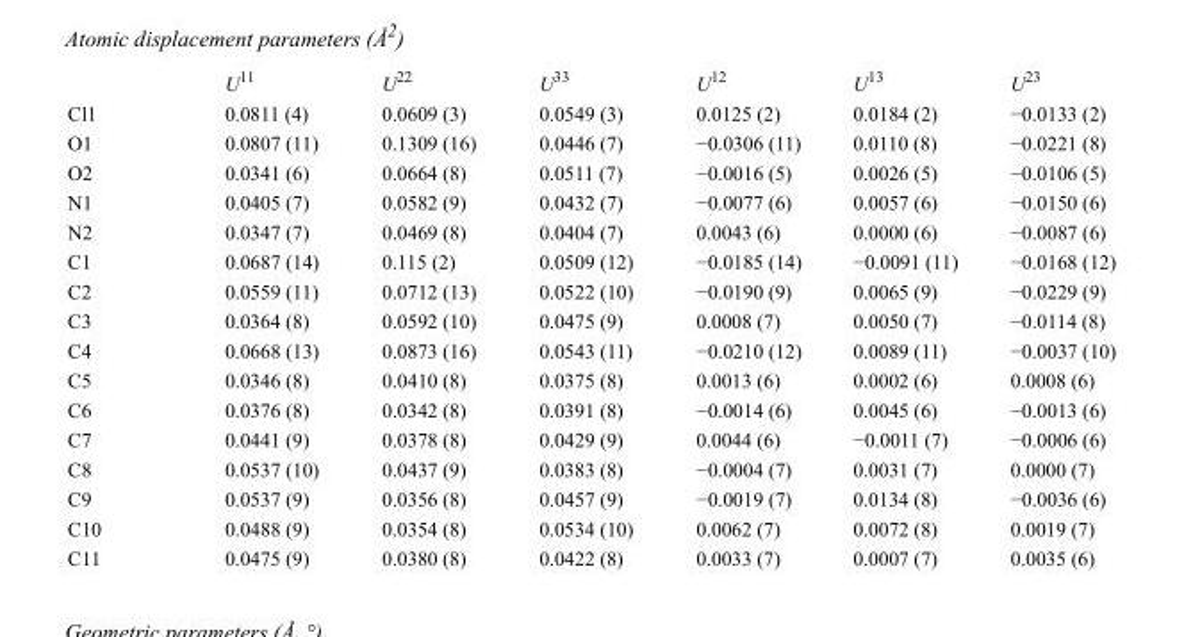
<table><thead><tr><td></td><td>U<sup>11</sup></td><td>U<sup>22</sup></td><td>U<sup>33</sup></td><td>U<sup>12</sup></td><td>U<sup>13</sup></td><td>U<sup>23</sup></td></tr></thead><tbody><tr><td>Cl1</td><td>0.0811 (4)</td><td>0.0609 (3)</td><td>0.0549 (3)</td><td>0.0125 (2)</td><td>0.0184 (2)</td><td>−0.0133 (2)</td></tr><tr><td>O1</td><td>0.0807 (11)</td><td>0.1309 (16)</td><td>0.0446 (7)</td><td>−0.0306 (11)</td><td>0.0110 (8)</td><td>−0.0221 (8)</td></tr><tr><td>O2</td><td>0.0341 (6)</td><td>0.0664 (8)</td><td>0.0511 (7)</td><td>−0.0016 (5)</td><td>0.0026 (5)</td><td>−0.0106 (5)</td></tr><tr><td>N1</td><td>0.0405 (7)</td><td>0.0582 (9)</td><td>0.0432 (7)</td><td>−0.0077 (6)</td><td>0.0057 (6)</td><td>−0.0150 (6)</td></tr><tr><td>N2</td><td>0.0347 (7)</td><td>0.0469 (8)</td><td>0.0404 (7)</td><td>0.0043 (6)</td><td>0.0000 (6)</td><td>−0.0087 (6)</td></tr><tr><td>C1</td><td>0.0687 (14)</td><td>0.115 (2)</td><td>0.0509 (12)</td><td>−0.0185 (14)</td><td>−0.0091 (11)</td><td>−0.0168 (12)</td></tr><tr><td>C2</td><td>0.0559 (11)</td><td>0.0712 (13)</td><td>0.0522 (10)</td><td>−0.0190 (9)</td><td>0.0065 (9)</td><td>−0.0229 (9)</td></tr><tr><td>C3</td><td>0.0364 (8)</td><td>0.0592 (10)</td><td>0.0475 (9)</td><td>0.0008 (7)</td><td>0.0050 (7)</td><td>−0.0114 (8)</td></tr><tr><td>C4</td><td>0.0668 (13)</td><td>0.0873 (16)</td><td>0.0543 (11)</td><td>−0.0210 (12)</td><td>0.0089 (11)</td><td>−0.0037 (10)</td></tr><tr><td>C5</td><td>0.0346 (8)</td><td>0.0410 (8)</td><td>0.0375 (8)</td><td>0.0013 (6)</td><td>0.0002 (6)</td><td>0.0008 (6)</td></tr><tr><td>C6</td><td>0.0376 (8)</td><td>0.0342 (8)</td><td>0.0391 (8)</td><td>−0.0014 (6)</td><td>0.0045 (6)</td><td>−0.0013 (6)</td></tr><tr><td>C7</td><td>0.0441 (9)</td><td>0.0378 (8)</td><td>0.0429 (9)</td><td>0.0044 (6)</td><td>−0.0011 (7)</td><td>−0.0006 (6)</td></tr><tr><td>C8</td><td>0.0537 (10)</td><td>0.0437 (9)</td><td>0.0383 (8)</td><td>−0.0004 (7)</td><td>0.0031 (7)</td><td>0.0000 (7)</td></tr><tr><td>C9</td><td>0.0537 (9)</td><td>0.0356 (8)</td><td>0.0457 (9)</td><td>−0.0019 (7)</td><td>0.0134 (8)</td><td>−0.0036 (6)</td></tr><tr><td>C10</td><td>0.0488 (9)</td><td>0.0354 (8)</td><td>0.0534 (10)</td><td>0.0062 (7)</td><td>0.0072 (8)</td><td>0.0019 (7)</td></tr><tr><td>C11</td><td>0.0475 (9)</td><td>0.0380 (8)</td><td>0.0422 (8)</td><td>0.0033 (7)</td><td>0.0007 (7)</td><td>0.0035 (6)</td></tr></tbody></table>